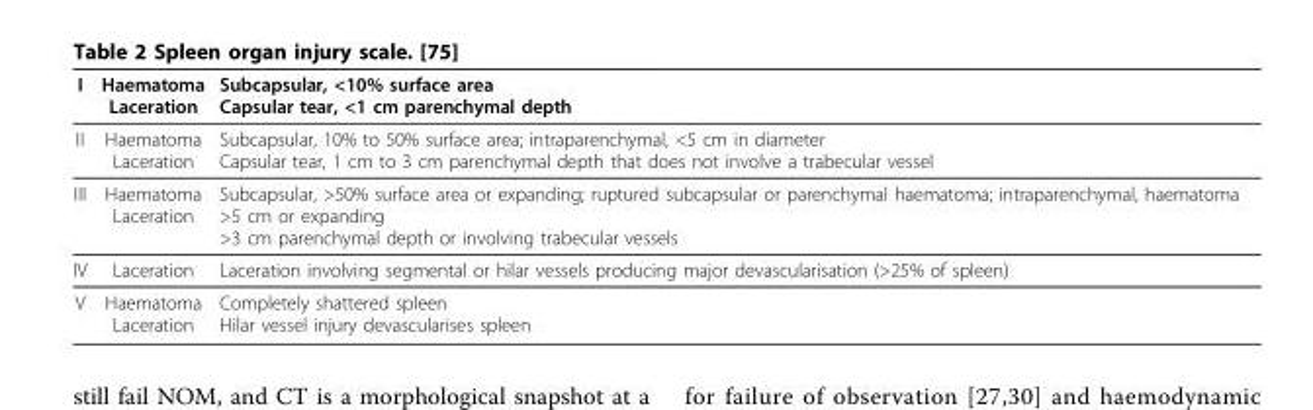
<table><thead><tr><td>I</td><td>Haematoma Laceration</td><td>Subcapsular, &lt;10% surface area Capsular tear, &lt;1 cm parenchymal depth</td></tr></thead><tbody><tr><td>II</td><td>Haematoma Laceration</td><td>Subcapsular, 10% to 50% surface area; intraparenchymal, &lt;5 cm in diameter Capsular tear, 1 cm to 3 cm parenchymal depth that does not involve a trabecular vessel</td></tr><tr><td>III</td><td>Haematoma Laceration</td><td>Subcapsular, &gt;50% surface area or expanding; ruptured subcapsular or parenchymal haematoma; intraparenchymal, haematoma &gt;5 cm or expanding &gt;3 cm parenchymal depth or involving trabecular vessels</td></tr><tr><td>IV</td><td>Laceration</td><td>Laceration involving segmental or hilar vessels producing major devascularisation (&gt;25% of spleen)</td></tr><tr><td>V</td><td>Haematoma Laceration</td><td>Completely shattered spleen Hilar vessel injury devascularises spleen</td></tr></tbody></table>